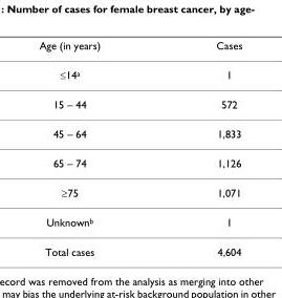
<table><thead><tr><td>Age (in years)</td><td>Cases</td></tr></thead><tbody><tr><td>≤14<sup>a</sup></td><td>1</td></tr><tr><td>15 – 44</td><td>572</td></tr><tr><td>45 – 64</td><td>1,833</td></tr><tr><td>65 – 74</td><td>1,126</td></tr><tr><td>≥75</td><td>1,071</td></tr><tr><td>Unknown<sup>b</sup></td><td>1</td></tr><tr><td>Total cases</td><td>4,604</td></tr></tbody></table>